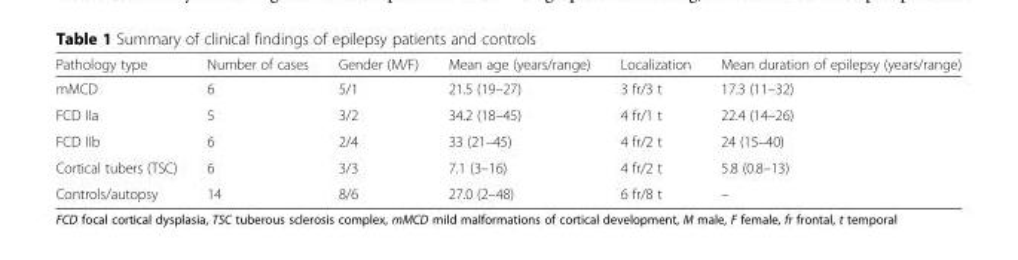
<table><thead><tr><td>Pathology type</td><td>Number of cases</td><td>Gender (M/F)</td><td>Mean age (years/range)</td><td>Localization</td><td>Mean duration of epilepsy (years/range)</td></tr></thead><tbody><tr><td>mMCD</td><td>6</td><td>5/1</td><td>21.5 (19–27)</td><td>3 fr/3 t</td><td>17.3 (11–32)</td></tr><tr><td>FCD IIa</td><td>5</td><td>3/2</td><td>34.2 (18–45)</td><td>4 fr/1 t</td><td>22.4 (14–26)</td></tr><tr><td>FCD IIb</td><td>6</td><td>2/4</td><td>33 (21–45)</td><td>4 fr/2 t</td><td>24 (15–40)</td></tr><tr><td>Cortical tubers (TSC)</td><td>6</td><td>3/3</td><td>7.1 (3–16)</td><td>4 fr/2 t</td><td>5.8 (0.8–13)</td></tr><tr><td>Controls/autopsy</td><td>14</td><td>8/6</td><td>27.0 (2–48)</td><td>6 fr/8 t</td><td>–</td></tr></tbody></table>